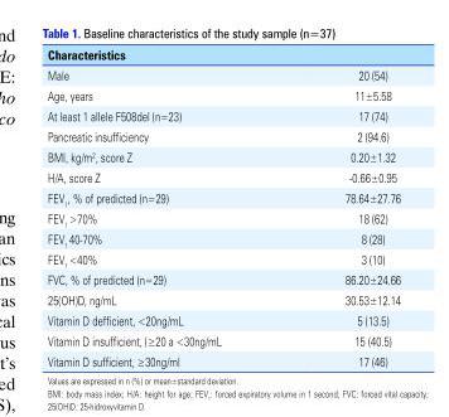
<table><thead><tr><td colspan="2">Characteristics</td></tr><tr><td>Male</td><td>20 (54)</td></tr></thead><tbody><tr><td>Age, years</td><td>11±5.58</td></tr><tr><td>At least 1 allele F508del (n=23)</td><td>17 (74)</td></tr><tr><td>Pancreatic insufficiency</td><td>2 (94.6)</td></tr><tr><td>BMI, kg/m<sup>2</sup>, score Z</td><td>0.20±1.32</td></tr><tr><td>H/A, score Z</td><td>-0.66±0.95</td></tr><tr><td>FEV<sub>1</sub>, % of predicted (n=29)</td><td>78.64±27.76</td></tr><tr><td>FEV<sub>1</sub> &gt;70%</td><td>18 (62)</td></tr><tr><td>FEV<sub>1</sub> 40-70%</td><td>8 (28)</td></tr><tr><td>FEV<sub>1</sub> &lt;40%</td><td>3 (10)</td></tr><tr><td>FVC, % of predicted (n=29)</td><td>86.20±24.66</td></tr><tr><td>25(OH)D, ng/mL</td><td>30.53±12.14</td></tr><tr><td>Vitamin D defficient, &lt;20ng/mL</td><td>5 (13.5)</td></tr><tr><td>Vitamin D insufficient, (≥20 a &lt;30ng/mL</td><td>15 (40.5)</td></tr><tr><td>Vitamin D sufficient, ≥30ng/ml</td><td>17 (46)</td></tr></tbody></table>